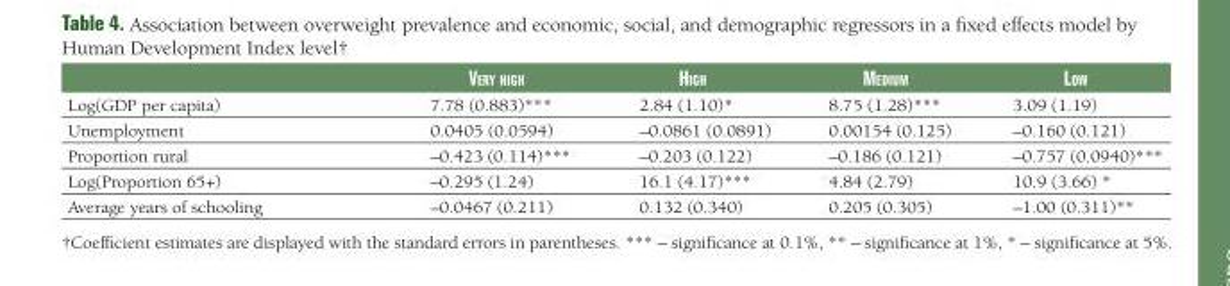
<table><thead><tr><td></td><td>Very high</td><td>high</td><td>MediuM</td><td>Low</td></tr></thead><tbody><tr><td>Log(GDP per capita)</td><td>7.78 (0.883)***</td><td>2.84 (1.10)*</td><td>8.75 (1.28)***</td><td>3.09 (1.19)</td></tr><tr><td>Unemployment</td><td>0.0405 (0.0594)</td><td>–0.0861 (0.0891)</td><td>0.00154 (0.125)</td><td>–0.160 (0.121)</td></tr><tr><td>Proportion rural</td><td>–0.423 (0.114)***</td><td>–0.203 (0.122)</td><td>–0.186 (0.121)</td><td>–0.757 (0.0940)***</td></tr><tr><td>Log(Proportion 65+)</td><td>–0.295 (1.24)</td><td>16.1 (4.17)***</td><td>4.84 (2.79)</td><td>10.9 (3.66) *</td></tr><tr><td>Average years of schooling</td><td>–0.0467 (0.211)</td><td>0.132 (0.340)</td><td>0.205 (0.305)</td><td>–1.00 (0.311)**</td></tr></tbody></table>